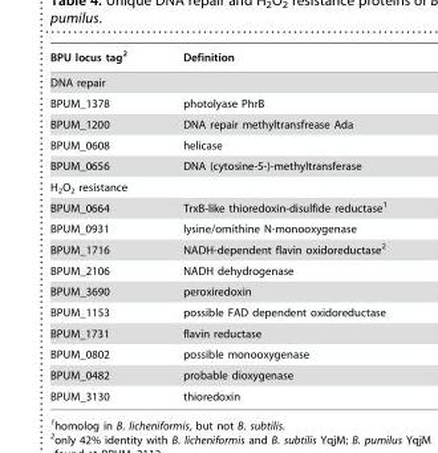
<table><thead><tr><td>BPU locus tag<sup>2</sup></td><td>Definition</td></tr></thead><tbody><tr><td colspan="2">DNA repair</td></tr><tr><td>BPUM_1378</td><td>photolyase PhrB</td></tr><tr><td>BPUM_1200</td><td>DNA repair methyltransfrease Ada</td></tr><tr><td>BPUM_0608</td><td>helicase</td></tr><tr><td>BPUM_0656</td><td>DNA (cytosine-5-)-methyltransferase</td></tr><tr><td colspan="2">H<sub>2</sub>O<sub>2</sub> resistance</td></tr><tr><td>BPUM_0664</td><td>TrxB-like thioredoxin-disulfide reductase<sup>1</sup></td></tr><tr><td>BPUM_0931</td><td>lysine/ornithine N-monooxygenase</td></tr><tr><td>BPUM_1716</td><td>NADH-dependent flavin oxidoreductase<sup>2</sup></td></tr><tr><td>BPUM_2106</td><td>NADH dehydrogenase</td></tr><tr><td>BPUM_3690</td><td>peroxiredoxin</td></tr><tr><td>BPUM_1153</td><td>possible FAD dependent oxidoreductase</td></tr><tr><td>BPUM_1731</td><td>flavin reductase</td></tr><tr><td>BPUM_0802</td><td>possible monooxygenase</td></tr><tr><td>BPUM_0482</td><td>probable dioxygenase</td></tr><tr><td>BPUM_3130</td><td>thioredoxin</td></tr></tbody></table>